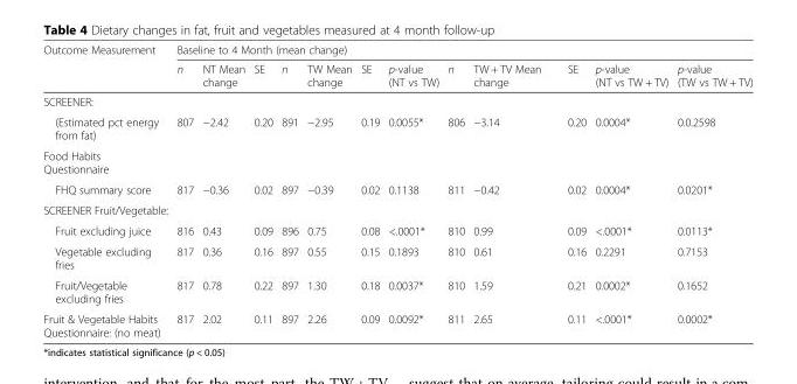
<table><thead><tr><td rowspan="2">Outcome Measurement</td><td colspan="12">Baseline to 4 Month (mean change)</td></tr><tr><td>n</td><td>NT Mean change</td><td>SE</td><td>n</td><td>TW Mean change</td><td>SE</td><td>p-value (NT vs TW)</td><td>n</td><td>TW + TV Mean change</td><td>SE</td><td>p-value (NT vs TW + TV)</td><td>p-value (TW vs TW + TV)</td></tr></thead><tbody><tr><td colspan="13">SCREENER:</td></tr><tr><td>(Estimated pct energy from fat)</td><td>807</td><td>−2.42</td><td>0.20</td><td>891</td><td>−2.95</td><td>0.19</td><td>0.0055*</td><td>806</td><td>−3.14</td><td>0.20</td><td>0.0004*</td><td>0.0.2598</td></tr><tr><td colspan="13">Food Habits Questionnaire</td></tr><tr><td>FHQ summary score</td><td>817</td><td>−0.36</td><td>0.02</td><td>897</td><td>−0.39</td><td>0.02</td><td>0.1138</td><td>811</td><td>−0.42</td><td>0.02</td><td>0.0004*</td><td>0.0201*</td></tr><tr><td colspan="13">SCREENER Fruit/Vegetable:</td></tr><tr><td>Fruit excluding juice</td><td>816</td><td>0.43</td><td>0.09</td><td>896</td><td>0.75</td><td>0.08</td><td>&lt;.0001*</td><td>810</td><td>0.99</td><td>0.09</td><td>&lt;.0001*</td><td>0.0113*</td></tr><tr><td>Vegetable excluding fries</td><td>817</td><td>0.36</td><td>0.16</td><td>897</td><td>0.55</td><td>0.15</td><td>0.1893</td><td>810</td><td>0.61</td><td>0.16</td><td>0.2291</td><td>0.7153</td></tr><tr><td>Fruit/Vegetable excluding fries</td><td>817</td><td>0.78</td><td>0.22</td><td>897</td><td>1.30</td><td>0.18</td><td>0.0037*</td><td>810</td><td>1.59</td><td>0.21</td><td>0.0002*</td><td>0.1652</td></tr><tr><td>Fruit &amp; Vegetable Habits Questionnaire: (no meat)</td><td>817</td><td>2.02</td><td>0.11</td><td>897</td><td>2.26</td><td>0.09</td><td>0.0092*</td><td>811</td><td>2.65</td><td>0.11</td><td>&lt;.0001*</td><td>0.0002*</td></tr></tbody></table>